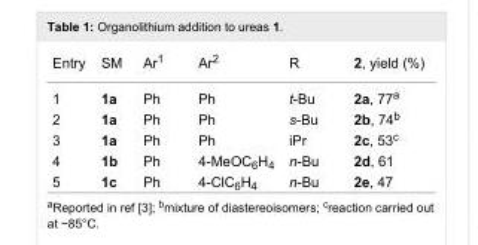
<table><tbody><tr><td>Entry</td><td>SM</td><td>Ar<sup>1</sup></td><td>Ar<sup>2</sup></td><td>R</td><td>2, yield (%)</td></tr><tr><td>1</td><td>1a</td><td>Ph</td><td>Ph</td><td>t-Bu</td><td>2a, 77<sup>a</sup></td></tr><tr><td>2</td><td>1a</td><td>Ph</td><td>Ph</td><td>s-Bu</td><td>2b, 74<sup>b</sup></td></tr><tr><td>3</td><td>1a</td><td>Ph</td><td>Ph</td><td>iPr</td><td>2c, 53<sup>c</sup></td></tr><tr><td>4</td><td>1b</td><td>Ph</td><td>4-MeOC<sub>6</sub>H<sub>4</sub></td><td>n-Bu</td><td>2d, 61</td></tr><tr><td>5</td><td>1c</td><td>Ph</td><td>4-ClC<sub>6</sub>H<sub>4</sub></td><td>n-Bu</td><td>2e, 47</td></tr></tbody></table>